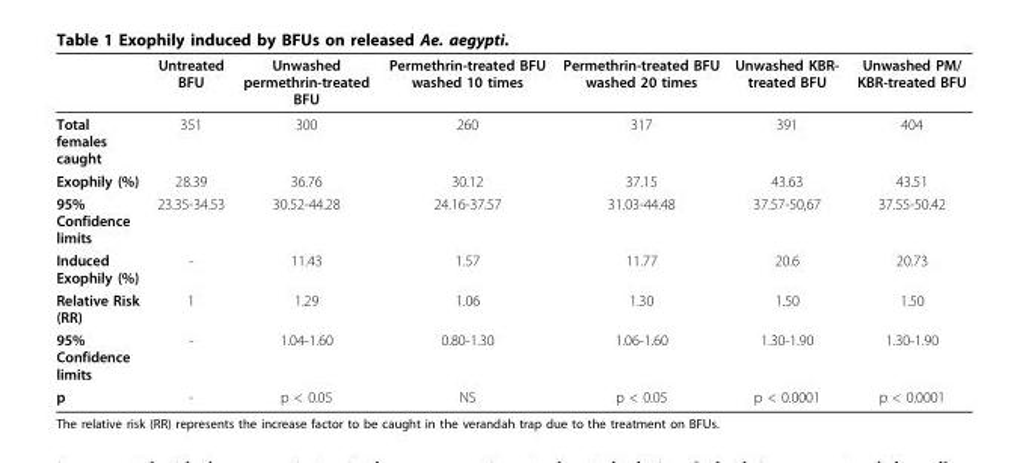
<table><thead><tr><td></td><td>Untreated BFU</td><td>Unwashed permethrin-treated BFU</td><td>Permethrin-treated BFU washed 10 times</td><td>Permethrin-treated BFU washed 20 times</td><td>Unwashed KBR- treated BFU</td><td>Unwashed PM/ KBR-treated BFU</td></tr></thead><tbody><tr><td>Total females caught</td><td>351</td><td>300</td><td>260</td><td>317</td><td>391</td><td>404</td></tr><tr><td>Exophily (%)</td><td>28.39</td><td>36.76</td><td>30.12</td><td>37.15</td><td>43.63</td><td>43.51</td></tr><tr><td>95% Confidence limits</td><td>23.35-34.53</td><td>30.52-44.28</td><td>24.16-37.57</td><td>31.03-44.48</td><td>37.57-50,67</td><td>37.55-50.42</td></tr><tr><td>Induced Exophily (%)</td><td>-</td><td>11.43</td><td>1.57</td><td>11.77</td><td>20.6</td><td>20.73</td></tr><tr><td>Relative Risk (RR)</td><td>1</td><td>1.29</td><td>1.06</td><td>1.30</td><td>1.50</td><td>1.50</td></tr><tr><td>95% Confidence limits</td><td>-</td><td>1.04-1.60</td><td>0.80-1.30</td><td>1.06-1.60</td><td>1.30-1.90</td><td>1.30-1.90</td></tr><tr><td>p</td><td>-</td><td>p &lt; 0.05</td><td>NS</td><td>p &lt; 0.05</td><td>p &lt; 0.0001</td><td>p &lt; 0.0001</td></tr></tbody></table>